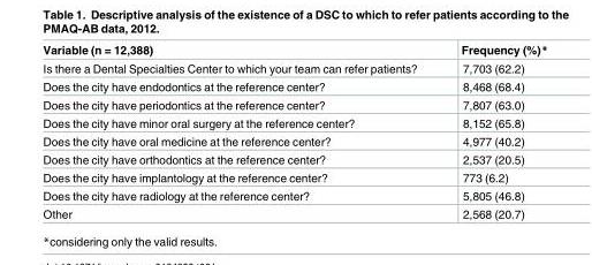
<table><thead><tr><td>Variable (n = 12,388)</td><td>Frequency (%)*</td></tr></thead><tbody><tr><td>Is there a Dental Specialties Center to which your team can refer patients?</td><td>7,703 (62.2)</td></tr><tr><td>Does the city have endodontics at the reference center?</td><td>8,468 (68.4)</td></tr><tr><td>Does the city have periodontics at the reference center?</td><td>7,807 (63.0)</td></tr><tr><td>Does the city have minor oral surgery at the reference center?</td><td>8,152 (65.8)</td></tr><tr><td>Does the city have oral medicine at the reference center?</td><td>4,977 (40.2)</td></tr><tr><td>Does the city have orthodontics at the reference center?</td><td>2,537 (20.5)</td></tr><tr><td>Does the city have implantology at the reference center?</td><td>773 (6.2)</td></tr><tr><td>Does the city have radiology at the reference center?</td><td>5,805 (46.8)</td></tr><tr><td>Other</td><td>2,568 (20.7)</td></tr></tbody></table>